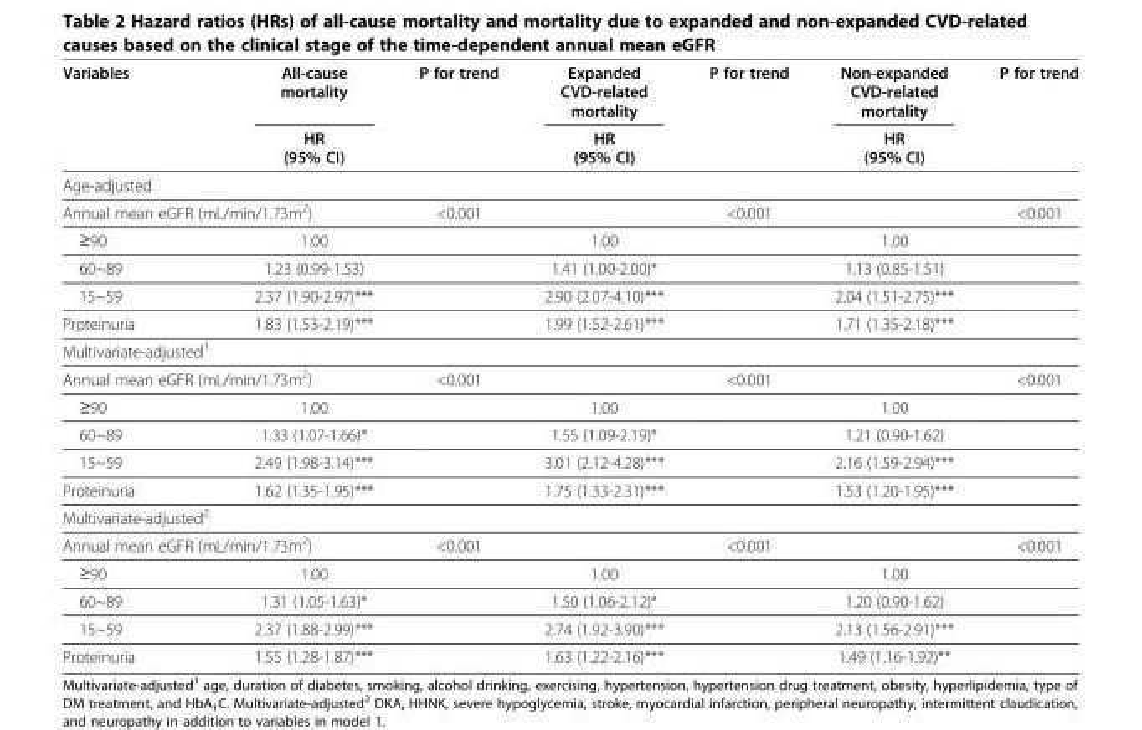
<table><thead><tr><td rowspan="2">Variables</td><td rowspan="2">All-cause mortality HR (95% CI)</td><td rowspan="2">P for trend</td><td rowspan="2">Expanded CVD-related mortality HR (95% CI)</td><td rowspan="2">P for trend</td><td rowspan="2">Non-expanded CVD-related mortality HR (95% CI)</td><td rowspan="2">P for trend</td></tr><tr></tr></thead><tbody><tr><td colspan="7">Age-adjusted</td></tr><tr><td colspan="2">Annual mean eGFR (mL/min/1.73m<sup>2</sup>)</td><td>&lt;0.001</td><td></td><td>&lt;0.001</td><td></td><td>&lt;0.001</td></tr><tr><td>≥90</td><td>1.00</td><td></td><td>1.00</td><td></td><td>1.00</td><td></td></tr><tr><td>60~89</td><td>1.23 (0.99-1.53)</td><td></td><td>1.41 (1.00-2.00)*</td><td></td><td>1.13 (0.85-1.51)</td><td></td></tr><tr><td>15~59</td><td>2.37 (1.90-2.97)***</td><td></td><td>2.90 (2.07-4.10)***</td><td></td><td>2.04 (1.51-2.75)***</td><td></td></tr><tr><td>Proteinuria</td><td>1.83 (1.53-2.19)***</td><td></td><td>1.99 (1.52-2.61)***</td><td></td><td>1.71 (1.35-2.18)***</td><td></td></tr><tr><td colspan="7">Multivariate-adjusted<sup>1</sup></td></tr><tr><td colspan="2">Annual mean eGFR (mL/min/1.73m<sup>2</sup>)</td><td>&lt;0.001</td><td></td><td>&lt;0.001</td><td></td><td>&lt;0.001</td></tr><tr><td>≥90</td><td>1.00</td><td></td><td>1.00</td><td></td><td>1.00</td><td></td></tr><tr><td>60~89</td><td>1.33 (1.07-1.66)*</td><td></td><td>1.55 (1.09-2.19)*</td><td></td><td>1.21 (0.90-1.62)</td><td></td></tr><tr><td>15~59</td><td>2.49 (1.98-3.14)***</td><td></td><td>3.01 (2.12-4.28)***</td><td></td><td>2.16 (1.59-2.94)***</td><td></td></tr><tr><td>Proteinuria</td><td>1.62 (1.35-1.95)***</td><td></td><td>1.75 (1.33-2.31)***</td><td></td><td>1.53 (1.20-1.95)***</td><td></td></tr><tr><td colspan="7">Multivariate-adjusted<sup>2</sup></td></tr><tr><td colspan="2">Annual mean eGFR (mL/min/1.73m<sup>2</sup>)</td><td>&lt;0.001</td><td></td><td>&lt;0.001</td><td></td><td>&lt;0.001</td></tr><tr><td>≥90</td><td>1.00</td><td></td><td>1.00</td><td></td><td>1.00</td><td></td></tr><tr><td>60~89</td><td>1.31 (1.05-1.63)*</td><td></td><td>1.50 (1.06-2.12)*</td><td></td><td>1.20 (0.90-1.62)</td><td></td></tr><tr><td>15~59</td><td>2.37 (1.88-2.99)***</td><td></td><td>2.74 (1.92-3.90)***</td><td></td><td>2.13 (1.56-2.91)***</td><td></td></tr><tr><td>Proteinuria</td><td>1.55 (1.28-1.87)***</td><td></td><td>1.63 (1.22-2.16)***</td><td></td><td>1.49 (1.16-1.92)**</td><td></td></tr></tbody></table>